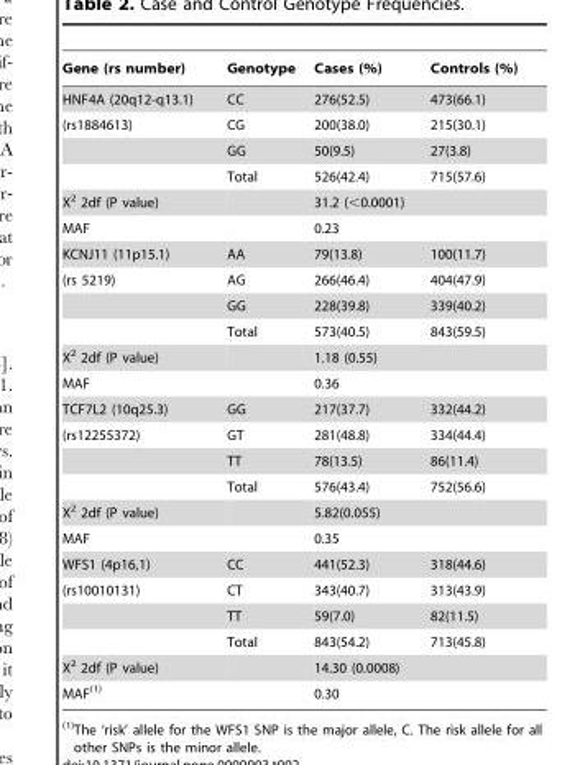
<table><thead><tr><td>Gene (rs number)</td><td>Genotype</td><td>Cases (%)</td><td>Controls (%)</td></tr></thead><tbody><tr><td>HNF4A (20q12-q13.1)</td><td>CC</td><td>276(52.5)</td><td>473(66.1)</td></tr><tr><td rowspan="3">(rs1884613)</td><td>CG</td><td>200(38.0)</td><td>215(30.1)</td></tr><tr><td>GG</td><td>50(9.5)</td><td>27(3.8)</td></tr><tr><td>Total</td><td>526(42.4)</td><td>715(57.6)</td></tr><tr><td>X<sup>2</sup> 2df (P value)</td><td></td><td colspan="2">31.2 (&lt;0.0001)</td></tr><tr><td>MAF</td><td></td><td colspan="2">0.23</td></tr><tr><td>KCNJ11 (11p15.1)</td><td>AA</td><td>79(13.8)</td><td>100(11.7)</td></tr><tr><td rowspan="3">(rs 5219)</td><td>AG</td><td>266(46.4)</td><td>404(47.9)</td></tr><tr><td>GG</td><td>228(39.8)</td><td>339(40.2)</td></tr><tr><td>Total</td><td>573(40.5)</td><td>843(59.5)</td></tr><tr><td>X<sup>2</sup> 2df (P value)</td><td></td><td colspan="2">1.18 (0.55)</td></tr><tr><td>MAF</td><td></td><td colspan="2">0.36</td></tr><tr><td>TCF7L2 (10q25.3)</td><td>GG</td><td>217(37.7)</td><td>332(44.2)</td></tr><tr><td rowspan="3">(rs12255372)</td><td>GT</td><td>281(48.8)</td><td>334(44.4)</td></tr><tr><td>TT</td><td>78(13.5)</td><td>86(11.4)</td></tr><tr><td>Total</td><td>576(43.4)</td><td>752(56.6)</td></tr><tr><td>X<sup>2</sup> 2df (P value)</td><td></td><td colspan="2">5.82(0.055)</td></tr><tr><td>MAF</td><td></td><td colspan="2">0.35</td></tr><tr><td>WFS1 (4p16,1)</td><td>CC</td><td>441(52.3)</td><td>318(44.6)</td></tr><tr><td rowspan="3">(rs10010131)</td><td>CT</td><td>343(40.7)</td><td>313(43.9)</td></tr><tr><td>TT</td><td>59(7.0)</td><td>82(11.5)</td></tr><tr><td>Total</td><td>843(54.2)</td><td>713(45.8)</td></tr><tr><td>X<sup>2</sup> 2df (P value)</td><td></td><td colspan="2">14.30 (0.0008)</td></tr><tr><td>MAF(1)</td><td></td><td colspan="2">0.30</td></tr></tbody></table>